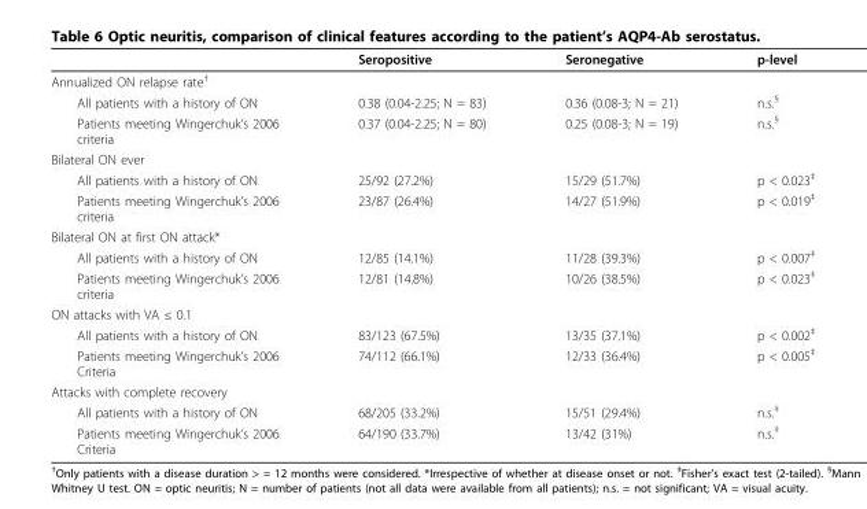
<table><thead><tr><td></td><td>Seropositive</td><td>Seronegative</td><td>p-level</td></tr></thead><tbody><tr><td colspan="4">Annualized ON relapse rate<sup>†</sup></td></tr><tr><td>All patients with a history of ON</td><td>0.38 (0.04-2.25; N = 83)</td><td>0.36 (0.08-3; N = 21)</td><td>n.s.<sup>§</sup></td></tr><tr><td>Patients meeting Wingerchuk’s 2006 criteria</td><td>0.37 (0.04-2.25; N = 80)</td><td>0.25 (0.08-3; N = 19)</td><td>n.s.<sup>§</sup></td></tr><tr><td colspan="4">Bilateral ON ever</td></tr><tr><td>All patients with a history of ON</td><td>25/92 (27.2%)</td><td>15/29 (51.7%)</td><td>p &lt; 0.023<sup>‡</sup></td></tr><tr><td>Patients meeting Wingerchuk’s 2006 criteria</td><td>23/87 (26.4%)</td><td>14/27 (51.9%)</td><td>p &lt; 0.019<sup>‡</sup></td></tr><tr><td colspan="4">Bilateral ON at first ON attack*</td></tr><tr><td>All patients with a history of ON</td><td>12/85 (14.1%)</td><td>11/28 (39.3%)</td><td>p &lt; 0.007<sup>‡</sup></td></tr><tr><td>Patients meeting Wingerchuk’s 2006 criteria</td><td>12/81 (14.8%)</td><td>10/26 (38.5%)</td><td>p &lt; 0.023<sup>‡</sup></td></tr><tr><td colspan="4">ON attacks with VA ≤ 0.1</td></tr><tr><td>All patients with a history of ON</td><td>83/123 (67.5%)</td><td>13/35 (37.1%)</td><td>p &lt; 0.002<sup>‡</sup></td></tr><tr><td>Patients meeting Wingerchuk’s 2006 Criteria</td><td>74/112 (66.1%)</td><td>12/33 (36.4%)</td><td>p &lt; 0.005<sup>‡</sup></td></tr><tr><td colspan="4">Attacks with complete recovery</td></tr><tr><td>All patients with a history of ON</td><td>68/205 (33.2%)</td><td>15/51 (29.4%)</td><td>n.s.<sup>‡</sup></td></tr><tr><td>Patients meeting Wingerchuk’s 2006 Criteria</td><td>64/190 (33.7%)</td><td>13/42 (31%)</td><td>n.s.<sup>‡</sup></td></tr></tbody></table>